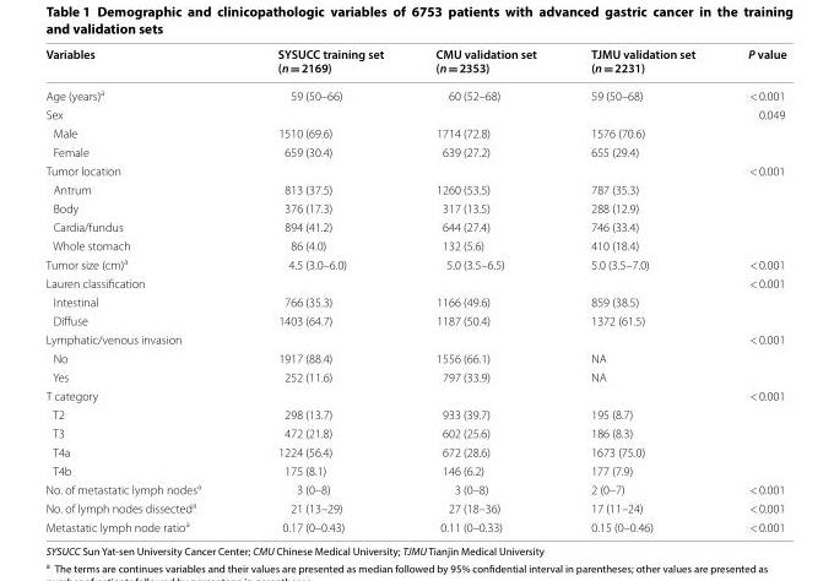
<table><thead><tr><td>Variables</td><td>SYSUCC training set (n = 2169)</td><td>CMU validation set (n = 2353)</td><td>TJMU validation set (n = 2231)</td><td>P value</td></tr></thead><tbody><tr><td>Age (years)<sup>a</sup></td><td>59 (50–66)</td><td>60 (52–68)</td><td>59 (50–68)</td><td>&lt; 0.001</td></tr><tr><td colspan="4">Sex</td><td rowspan="3">0.049</td></tr><tr><td>Male</td><td>1510 (69.6)</td><td>1714 (72.8)</td><td>1576 (70.6)</td></tr><tr><td>Female</td><td>659 (30.4)</td><td>639 (27.2)</td><td>655 (29.4)</td></tr><tr><td colspan="4">Tumor location</td><td rowspan="5">&lt; 0.001</td></tr><tr><td>Antrum</td><td>813 (37.5)</td><td>1260 (53.5)</td><td>787 (35.3)</td></tr><tr><td>Body</td><td>376 (17.3)</td><td>317 (13.5)</td><td>288 (12.9)</td></tr><tr><td>Cardia/fundus</td><td>894 (41.2)</td><td>644 (27.4)</td><td>746 (33.4)</td></tr><tr><td>Whole stomach</td><td>86 (4.0)</td><td>132 (5.6)</td><td>410 (18.4)</td></tr><tr><td>Tumor size (cm)<sup>a</sup></td><td>4.5 (3.0–6.0)</td><td>5.0 (3.5–6.5)</td><td>5.0 (3.5–7.0)</td><td>&lt; 0.001</td></tr><tr><td colspan="4">Lauren classification</td><td rowspan="3">&lt; 0.001</td></tr><tr><td>Intestinal</td><td>766 (35.3)</td><td>1166 (49.6)</td><td>859 (38.5)</td></tr><tr><td>Diffuse</td><td>1403 (64.7)</td><td>1187 (50.4)</td><td>1372 (61.5)</td></tr><tr><td colspan="4">Lymphatic/venous invasion</td><td rowspan="3">&lt; 0.001</td></tr><tr><td>No</td><td>1917 (88.4)</td><td>1556 (66.1)</td><td>NA</td></tr><tr><td>Yes</td><td>252 (11.6)</td><td>797 (33.9)</td><td>NA</td></tr><tr><td colspan="4">T category</td><td rowspan="5">&lt; 0.001</td></tr><tr><td>T2</td><td>298 (13.7)</td><td>933 (39.7)</td><td>195 (8.7)</td></tr><tr><td>T3</td><td>472 (21.8)</td><td>602 (25.6)</td><td>186 (8.3)</td></tr><tr><td>T4a</td><td>1224 (56.4)</td><td>672 (28.6)</td><td>1673 (75.0)</td></tr><tr><td>T4b</td><td>175 (8.1)</td><td>146 (6.2)</td><td>177 (7.9)</td></tr><tr><td>No. of metastatic lymph nodes<sup>a</sup></td><td>3 (0–8)</td><td>3 (0–8)</td><td>2 (0–7)</td><td>&lt; 0.001</td></tr><tr><td>No. of lymph nodes dissected<sup>a</sup></td><td>21 (13–29)</td><td>27 (18–36)</td><td>17 (11–24)</td><td>&lt; 0.001</td></tr><tr><td>Metastatic lymph node ratio<sup>a</sup></td><td>0.17 (0–0.43)</td><td>0.11 (0–0.33)</td><td>0.15 (0–0.46)</td><td>&lt; 0.001</td></tr></tbody></table>